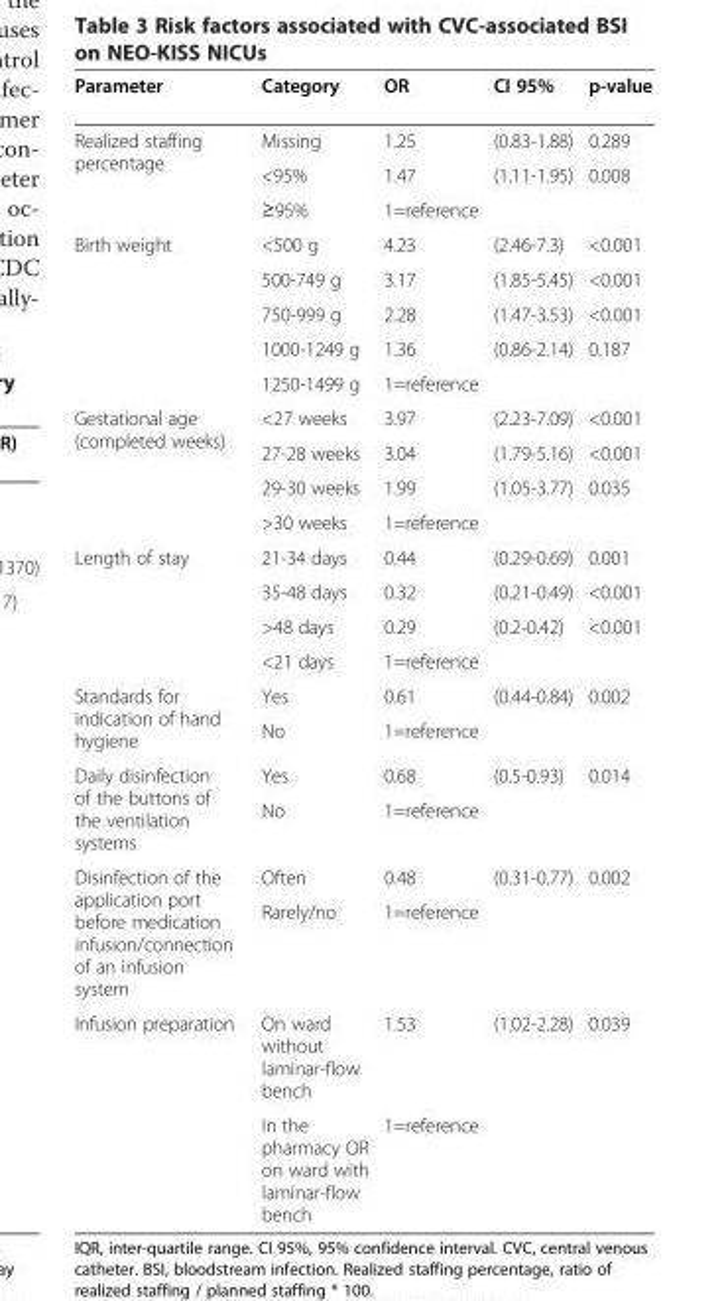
<table><thead><tr><td>Parameter</td><td>Category</td><td>OR</td><td>CI 95%</td><td>p-value</td></tr></thead><tbody><tr><td rowspan="3">Realized staffing percentage</td><td>Missing</td><td>1.25</td><td>(0.83-1.88)</td><td>0.289</td></tr><tr><td>&lt;95%</td><td>1.47</td><td>(1.11-1.95)</td><td>0.008</td></tr><tr><td>≥95%</td><td>1=reference</td><td></td><td></td></tr><tr><td rowspan="5">Birth weight</td><td>&lt;500 g</td><td>4.23</td><td>(2.46-7.3)</td><td>&lt;0.001</td></tr><tr><td>500-749 g</td><td>3.17</td><td>(1.85-5.45)</td><td>&lt;0.001</td></tr><tr><td>750-999 g</td><td>2.28</td><td>(1.47-3.53)</td><td>&lt;0.001</td></tr><tr><td>1000-1249 g</td><td>1.36</td><td>(0.86-2.14)</td><td>0.187</td></tr><tr><td>1250-1499 g</td><td>1=reference</td><td></td><td></td></tr><tr><td rowspan="4">Gestational age (completed weeks)</td><td>&lt;27 weeks</td><td>3.97</td><td>(2.23-7.09)</td><td>&lt;0.001</td></tr><tr><td>27-28 weeks</td><td>3.04</td><td>(1.79-5.16)</td><td>&lt;0.001</td></tr><tr><td>29-30 weeks</td><td>1.99</td><td>(1.05-3.77)</td><td>0.035</td></tr><tr><td>&gt;30 weeks</td><td>1=reference</td><td></td><td></td></tr><tr><td rowspan="4">Length of stay</td><td>21-34 days</td><td>0.44</td><td>(0.29-0.69)</td><td>0.001</td></tr><tr><td>35-48 days</td><td>0.32</td><td>(0.21-0.49)</td><td>&lt;0.001</td></tr><tr><td>&gt;48 days</td><td>0.29</td><td>(0.2-0.42)</td><td>&lt;0.001</td></tr><tr><td>&lt;21 days</td><td>1=reference</td><td></td><td></td></tr><tr><td rowspan="2">Standards for indication of hand hygiene</td><td>Yes</td><td>0.61</td><td>(0.44-0.84)</td><td>0.002</td></tr><tr><td>No</td><td>1=reference</td><td></td><td></td></tr><tr><td rowspan="2">Daily disinfection of the buttons of the ventilation systems</td><td>Yes</td><td>0.68</td><td>(0.5-0.93)</td><td>0.014</td></tr><tr><td>No</td><td>1=reference</td><td></td><td></td></tr><tr><td rowspan="2">Disinfection of the application port before medication infusion/connection of an infusion system</td><td>Often</td><td>0.48</td><td>(0.31-0.77)</td><td>0.002</td></tr><tr><td>Rarely/no</td><td>1=reference</td><td></td><td></td></tr><tr><td rowspan="2">Infusion preparation</td><td>On ward without laminar-flow bench</td><td>1.53</td><td>(1.02-2.28)</td><td>0.039</td></tr><tr><td>In the pharmacy OR on ward with laminar-flow bench</td><td>1=reference</td><td></td><td></td></tr></tbody></table>